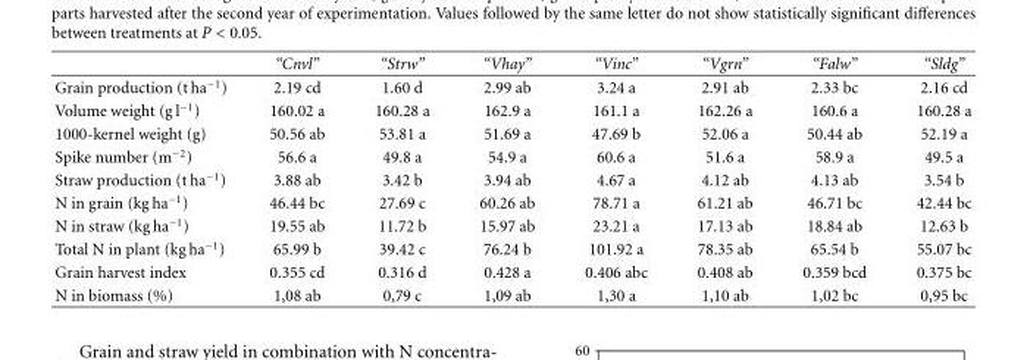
<table><thead><tr><td></td><td>“Cnvl”</td><td>“Strw”</td><td>“Vhay”</td><td>“Vinc”</td><td>“Vgrn”</td><td>“Falw”</td><td>“Sldg”</td></tr></thead><tbody><tr><td>Grain production (t ha<sup>−1</sup>)</td><td>2.19 cd</td><td>1.60 d</td><td>2.99 ab</td><td>3.24 a</td><td>2.91 ab</td><td>2.33 bc</td><td>2.16 cd</td></tr><tr><td>Volume weight (g l<sup>−1</sup>)</td><td>160.02 a</td><td>160.28 a</td><td>162.9 a</td><td>161.1 a</td><td>162.26 a</td><td>160.6 a</td><td>160.28 a</td></tr><tr><td>1000-kernel weight (g)</td><td>50.56 ab</td><td>53.81 a</td><td>51.69 a</td><td>47.69 b</td><td>52.06 a</td><td>50.44 ab</td><td>52.19 a</td></tr><tr><td>Spike number (m<sup>−2</sup>)</td><td>56.6 a</td><td>49.8 a</td><td>54.9 a</td><td>60.6 a</td><td>51.6 a</td><td>58.9 a</td><td>49.5 a</td></tr><tr><td>Straw production (t ha<sup>−1</sup>)</td><td>3.88 ab</td><td>3.42 b</td><td>3.94 ab</td><td>4.67 a</td><td>4.12 ab</td><td>4.13 ab</td><td>3.54 b</td></tr><tr><td>N in grain (kg ha<sup>−1</sup>)</td><td>46.44 bc</td><td>27.69 c</td><td>60.26 ab</td><td>78.71 a</td><td>61.21 ab</td><td>46.71 bc</td><td>42.44 bc</td></tr><tr><td>N in straw (kg ha<sup>−1</sup>)</td><td>19.55 ab</td><td>11.72 b</td><td>15.97 ab</td><td>23.21 a</td><td>17.13 ab</td><td>18.84 ab</td><td>12.63 b</td></tr><tr><td>Total N in plant (kg ha<sup>−1</sup>)</td><td>65.99 b</td><td>39.42 c</td><td>76.24 b</td><td>101.92 a</td><td>78.35 ab</td><td>65.54 b</td><td>55.07 bc</td></tr><tr><td>Grain harvest index</td><td>0.355 cd</td><td>0.316 d</td><td>0.428 a</td><td>0.406 abc</td><td>0.408 ab</td><td>0.359 bcd</td><td>0.375 bc</td></tr><tr><td>N in biomass (%)</td><td>1,08 ab</td><td>0,79 c</td><td>1,09 ab</td><td>1,30 a</td><td>1,10 ab</td><td>1,02 bc</td><td>0,95 bc</td></tr></tbody></table>